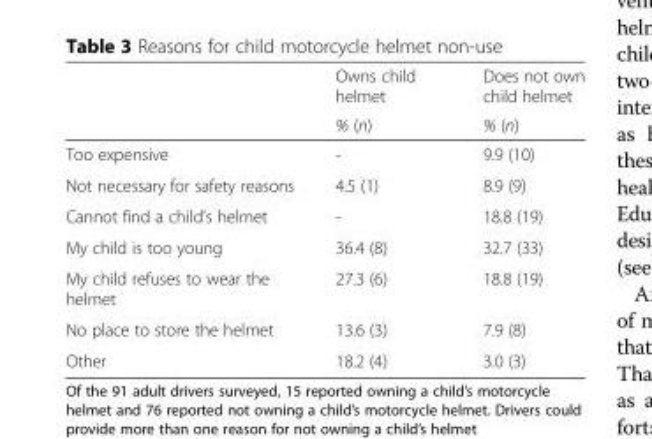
<table><thead><tr><td rowspan="2"></td><td rowspan="2">Owns child helmet % (n)</td><td rowspan="2">Does not own child helmet % (n)</td></tr><tr></tr></thead><tbody><tr><td>Too expensive</td><td>-</td><td>9.9 (10)</td></tr><tr><td>Not necessary for safety reasons</td><td>4.5 (1)</td><td>8.9 (9)</td></tr><tr><td>Cannot find a child’s helmet</td><td>-</td><td>18.8 (19)</td></tr><tr><td>My child is too young</td><td>36.4 (8)</td><td>32.7 (33)</td></tr><tr><td>My child refuses to wear the helmet</td><td>27.3 (6)</td><td>18.8 (19)</td></tr><tr><td>No place to store the helmet</td><td>13.6 (3)</td><td>7.9 (8)</td></tr><tr><td>Other</td><td>18.2 (4)</td><td>3.0 (3)</td></tr></tbody></table>